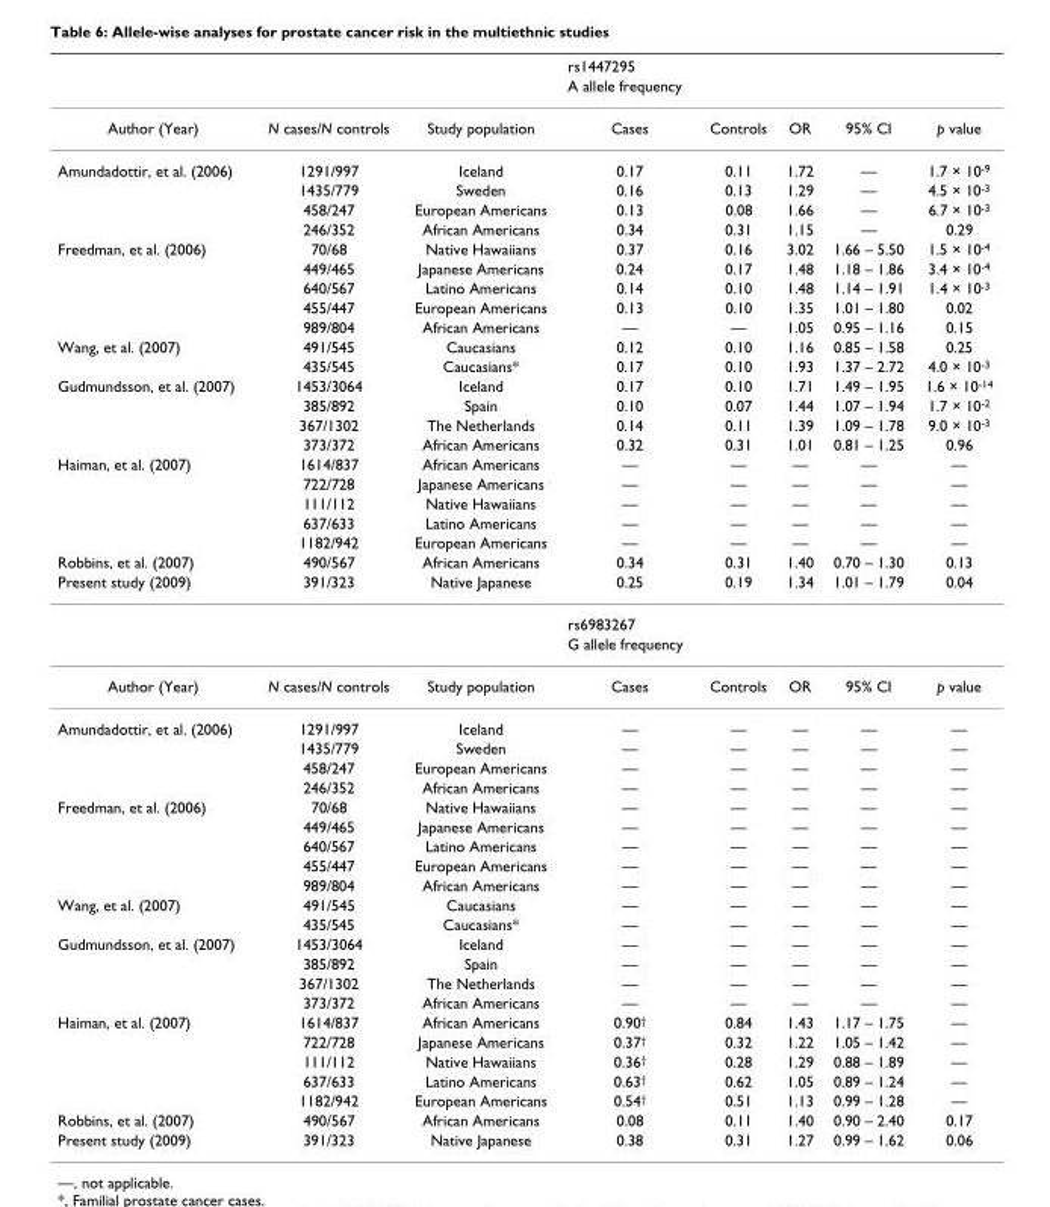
<table><thead><tr><td rowspan="2"></td><td rowspan="2"></td><td rowspan="2"></td><td rowspan="2">rs1447295 A allele frequency</td><td rowspan="2"></td><td rowspan="2"></td><td rowspan="2"></td><td rowspan="2"></td></tr><tr></tr></thead><tbody><tr><td>Author (Year)</td><td>N cases/N controls</td><td>Study population</td><td>Cases</td><td>Controls</td><td>OR</td><td>95% CI</td><td>p value</td></tr><tr><td rowspan="4">Amundadottir, et al. (2006)</td><td>1291/997</td><td>Iceland</td><td>0.17</td><td>0.11</td><td>1.72</td><td>—</td><td>1.7 × 10<sup>-9</sup></td></tr><tr><td>1435/779</td><td>Sweden</td><td>0.16</td><td>0.13</td><td>1.29</td><td>—</td><td>4.5 × 10<sup>-3</sup></td></tr><tr><td>458/247</td><td>European Americans</td><td>0.13</td><td>0.08</td><td>1.66</td><td>—</td><td>6.7 × 10<sup>-3</sup></td></tr><tr><td>246/352</td><td>African Americans</td><td>0.34</td><td>0.31</td><td>1.15</td><td>—</td><td>0.29</td></tr><tr><td rowspan="5">Freedman, et al. (2006)</td><td>70/68</td><td>Native Hawaiians</td><td>0.37</td><td>0.16</td><td>3.02</td><td>1.66 – 5.50</td><td>1.5 × 10<sup>-4</sup></td></tr><tr><td>449/465</td><td>Japanese Americans</td><td>0.24</td><td>0.17</td><td>1.48</td><td>1.18 – 1.86</td><td>3.4 × 10<sup>-4</sup></td></tr><tr><td>640/567</td><td>Latino Americans</td><td>0.14</td><td>0.10</td><td>1.48</td><td>1.14 – 1.91</td><td>1.4 × 10<sup>-3</sup></td></tr><tr><td>455/447</td><td>European Americans</td><td>0.13</td><td>0.10</td><td>1.35</td><td>1.01 – 1.80</td><td>0.02</td></tr><tr><td>989/804</td><td>African Americans</td><td>—</td><td>—</td><td>1.05</td><td>0.95 – 1.16</td><td>0.15</td></tr><tr><td rowspan="2">Wang, et al. (2007)</td><td>491/545</td><td>Caucasians</td><td>0.12</td><td>0.10</td><td>1.16</td><td>0.85 – 1.58</td><td>0.25</td></tr><tr><td>435/545</td><td>Caucasians*</td><td>0.17</td><td>0.10</td><td>1.93</td><td>1.37 – 2.72</td><td>4.0 × 10<sup>-3</sup></td></tr><tr><td rowspan="4">Gudmundsson, et al. (2007)</td><td>1453/3064</td><td>Iceland</td><td>0.17</td><td>0.10</td><td>1.71</td><td>1.49 – 1.95</td><td>1.6 × 10<sup>-14</sup></td></tr><tr><td>385/892</td><td>Spain</td><td>0.10</td><td>0.07</td><td>1.44</td><td>1.07 – 1.94</td><td>1.7 × 10<sup>-2</sup></td></tr><tr><td>367/1302</td><td>The Netherlands</td><td>0.14</td><td>0.11</td><td>1.39</td><td>1.09 – 1.78</td><td>9.0 × 10<sup>-3</sup></td></tr><tr><td>373/372</td><td>African Americans</td><td>0.32</td><td>0.31</td><td>1.01</td><td>0.81 – 1.25</td><td>0.96</td></tr><tr><td rowspan="5">Haiman, et al. (2007)</td><td>1614/837</td><td>African Americans</td><td>—</td><td>—</td><td>—</td><td>—</td><td>—</td></tr><tr><td>722/728</td><td>Japanese Americans</td><td>—</td><td>—</td><td>—</td><td>—</td><td>—</td></tr><tr><td>111/112</td><td>Native Hawaiians</td><td>—</td><td>—</td><td>—</td><td>—</td><td>—</td></tr><tr><td>637/633</td><td>Latino Americans</td><td>—</td><td>—</td><td>—</td><td>—</td><td>—</td></tr><tr><td>1182/942</td><td>European Americans</td><td>—</td><td>—</td><td>—</td><td>—</td><td>—</td></tr><tr><td>Robbins, et al. (2007)</td><td>490/567</td><td>African Americans</td><td>0.34</td><td>0.31</td><td>1.40</td><td>0.70 – 1.30</td><td>0.13</td></tr><tr><td rowspan="3">Present study (2009)</td><td>391/323</td><td>Native Japanese</td><td>0.25</td><td>0.19</td><td>1.34</td><td>1.01 – 1.79</td><td>0.04</td></tr><tr><td></td><td></td><td>rs6983267</td><td></td><td></td><td></td><td></td></tr><tr><td></td><td></td><td>G allele frequency</td><td></td><td></td><td></td><td></td></tr><tr><td>Author (Year)</td><td>N cases/N controls</td><td>Study population</td><td>Cases</td><td>Controls</td><td>OR</td><td>95% CI</td><td>p value</td></tr><tr><td rowspan="4">Amundadottir, et al. (2006)</td><td>1291/997</td><td>Iceland</td><td>—</td><td>—</td><td>—</td><td>—</td><td>—</td></tr><tr><td>1435/779</td><td>Sweden</td><td>—</td><td>—</td><td>—</td><td>—</td><td>—</td></tr><tr><td>458/247</td><td>European Americans</td><td>—</td><td>—</td><td>—</td><td>—</td><td>—</td></tr><tr><td>246/352</td><td>African Americans</td><td>—</td><td>—</td><td>—</td><td>—</td><td>—</td></tr><tr><td rowspan="5">Freedman, et al. (2006)</td><td>70/68</td><td>Native Hawaiians</td><td>—</td><td>—</td><td>—</td><td>—</td><td>—</td></tr><tr><td>449/465</td><td>Japanese Americans</td><td>—</td><td>—</td><td>—</td><td>—</td><td>—</td></tr><tr><td>640/567</td><td>Latino Americans</td><td>—</td><td>—</td><td>—</td><td>—</td><td>—</td></tr><tr><td>455/447</td><td>European Americans</td><td>—</td><td>—</td><td>—</td><td>—</td><td>—</td></tr><tr><td>989/804</td><td>African Americans</td><td>—</td><td>—</td><td>—</td><td>—</td><td>—</td></tr><tr><td rowspan="2">Wang, et al. (2007)</td><td>491/545</td><td>Caucasians</td><td>—</td><td>—</td><td>—</td><td>—</td><td>—</td></tr><tr><td>435/545</td><td>Caucasians*</td><td>—</td><td>—</td><td>—</td><td>—</td><td>—</td></tr><tr><td rowspan="4">Gudmundsson, et al. (2007)</td><td>1453/3064</td><td>Iceland</td><td>—</td><td>—</td><td>—</td><td>—</td><td>—</td></tr><tr><td>385/892</td><td>Spain</td><td>—</td><td>—</td><td>—</td><td>—</td><td>—</td></tr><tr><td>367/1302</td><td>The Netherlands</td><td>—</td><td>—</td><td>—</td><td>—</td><td>—</td></tr><tr><td>373/372</td><td>African Americans</td><td>—</td><td>—</td><td>—</td><td>—</td><td>—</td></tr><tr><td rowspan="5">Haiman, et al. (2007)</td><td>1614/837</td><td>African Americans</td><td>0.90<sup>†</sup></td><td>0.84</td><td>1.43</td><td>1.17 – 1.75</td><td>—</td></tr><tr><td>722/728</td><td>Japanese Americans</td><td>0.37<sup>†</sup></td><td>0.32</td><td>1.22</td><td>1.05 – 1.42</td><td>—</td></tr><tr><td>111/112</td><td>Native Hawaiians</td><td>0.36<sup>†</sup></td><td>0.28</td><td>1.29</td><td>0.88 – 1.89</td><td>—</td></tr><tr><td>637/633</td><td>Latino Americans</td><td>0.63<sup>†</sup></td><td>0.62</td><td>1.05</td><td>0.89 – 1.24</td><td>—</td></tr><tr><td>1182/942</td><td>European Americans</td><td>0.54<sup>†</sup></td><td>0.51</td><td>1.13</td><td>0.99 – 1.28</td><td>—</td></tr><tr><td>Robbins, et al. (2007)</td><td>490/567</td><td>African Americans</td><td>0.08</td><td>0.11</td><td>1.40</td><td>0.90 – 2.40</td><td>0.17</td></tr><tr><td>Present study (2009)</td><td>391/323</td><td>Native Japanese</td><td>0.38</td><td>0.31</td><td>1.27</td><td>0.99 – 1.62</td><td>0.06</td></tr></tbody></table>